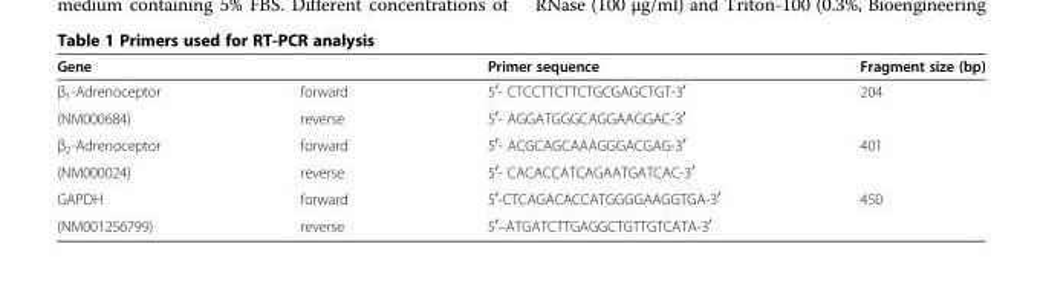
<table><thead><tr><td>Gene</td><td></td><td>Primer sequence</td><td>Fragment size (bp)</td></tr></thead><tbody><tr><td>β<sub>1</sub>-Adrenoceptor</td><td>forward</td><td>5<sup>′</sup>- CTCCTTCTTCTGCGAGCTGT-3<sup>′</sup></td><td rowspan="2">204</td></tr><tr><td>(NM000684)</td><td>reverse</td><td>5<sup>′</sup>- AGGATGGGCAGGAAGGAC-3<sup>′</sup></td></tr><tr><td>β<sub>2</sub>-Adrenoceptor</td><td>forward</td><td>5<sup>′</sup>- ACGCAGCAAAGGGACGAG-3<sup>′</sup></td><td rowspan="2">401</td></tr><tr><td>(NM000024)</td><td>reverse</td><td>5<sup>′</sup>- CACACCATCAGAATGATCAC-3<sup>′</sup></td></tr><tr><td>GAPDH</td><td>forward</td><td>5<sup>′</sup>-CTCAGACACCATGGGGAAGGTGA-3<sup>′</sup></td><td rowspan="2">450</td></tr><tr><td>(NM001256799)</td><td>reverse</td><td>50–ATGATCTTGAGGCTGTTGTCATA-30</td></tr></tbody></table>